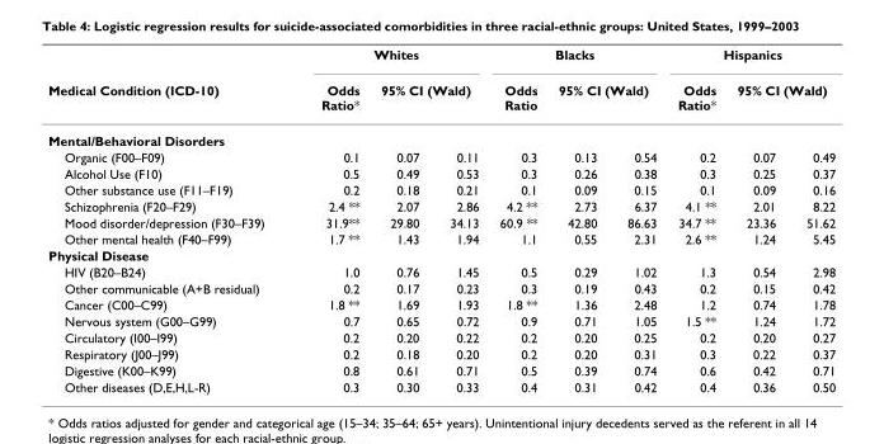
<table><thead><tr><td rowspan="3">Medical Condition (ICD-10) Mental/Behavioral Disorders</td><td colspan="3">Whites</td><td colspan="3">Blacks</td><td colspan="3">Hispanics</td></tr><tr><td rowspan="2">Odds Ratio*</td><td colspan="2">95% CI (Wald)</td><td rowspan="2">Odds Ratio</td><td colspan="2">95% CI (Wald)</td><td rowspan="2">Odds Ratio*</td><td colspan="2">95% CI (Wald)</td></tr><tr><td></td><td></td><td></td><td></td><td></td><td></td></tr></thead><tbody><tr><td>Organic (F00–F09)</td><td>0.1</td><td>0.07</td><td>0.11</td><td>0.3</td><td>0.13</td><td>0.54</td><td>0.2</td><td>0.07</td><td>0.49</td></tr><tr><td>Alcohol Use (F10)</td><td>0.5</td><td>0.49</td><td>0.53</td><td>0.3</td><td>0.26</td><td>0.38</td><td>0.3</td><td>0.25</td><td>0.37</td></tr><tr><td>Other substance use (F11–F19)</td><td>0.2</td><td>0.18</td><td>0.21</td><td>0.1</td><td>0.09</td><td>0.15</td><td>0.1</td><td>0.09</td><td>0.16</td></tr><tr><td>Schizophrenia (F20–F29)</td><td>2.4 **</td><td>2.07</td><td>2.86</td><td>4.2 **</td><td>2.73</td><td>6.37</td><td>4.1 **</td><td>2.01</td><td>8.22</td></tr><tr><td>Mood disorder/depression (F30–F39)</td><td>31.9**</td><td>29.80</td><td>34.13</td><td>60.9 **</td><td>42.80</td><td>86.63</td><td>34.7 **</td><td>23.36</td><td>51.62</td></tr><tr><td>Other mental health (F40–F99)</td><td>1.7 **</td><td>1.43</td><td>1.94</td><td>1.1</td><td>0.55</td><td>2.31</td><td>2.6 **</td><td>1.24</td><td>5.45</td></tr><tr><td colspan="10">Physical Disease</td></tr><tr><td>HIV (B20–B24)</td><td>1.0</td><td>0.76</td><td>1.45</td><td>0.5</td><td>0.29</td><td>1.02</td><td>1.3</td><td>0.54</td><td>2.98</td></tr><tr><td>Other communicable (A+B residual)</td><td>0.2</td><td>0.17</td><td>0.23</td><td>0.3</td><td>0.19</td><td>0.43</td><td>0.2</td><td>0.15</td><td>0.42</td></tr><tr><td>Cancer (C00–C99)</td><td>1.8 **</td><td>1.69</td><td>1.93</td><td>1.8 **</td><td>1.36</td><td>2.48</td><td>1.2</td><td>0.74</td><td>1.78</td></tr><tr><td>Nervous system (G00–G99)</td><td>0.7</td><td>0.65</td><td>0.72</td><td>0.9</td><td>0.71</td><td>1.05</td><td>1.5 **</td><td>1.24</td><td>1.72</td></tr><tr><td>Circulatory (I00–I99)</td><td>0.2</td><td>0.20</td><td>0.22</td><td>0.2</td><td>0.20</td><td>0.25</td><td>0.2</td><td>0.20</td><td>0.27</td></tr><tr><td>Respiratory (J00–J99)</td><td>0.2</td><td>0.18</td><td>0.20</td><td>0.2</td><td>0.20</td><td>0.31</td><td>0.3</td><td>0.22</td><td>0.37</td></tr><tr><td>Digestive (K00–K99)</td><td>0.8</td><td>0.61</td><td>0.71</td><td>0.5</td><td>0.39</td><td>0.74</td><td>0.6</td><td>0.42</td><td>0.71</td></tr><tr><td>Other diseases (D,E,H,L-R)</td><td>0.3</td><td>0.30</td><td>0.33</td><td>0.4</td><td>0.31</td><td>0.42</td><td>0.4</td><td>0.36</td><td>0.50</td></tr></tbody></table>